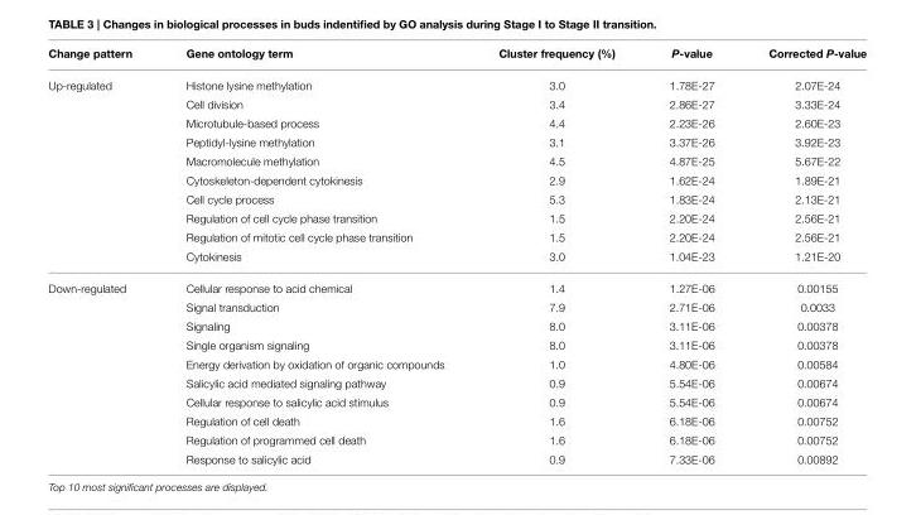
<table><thead><tr><td>Change pattern</td><td>Gene ontology term</td><td>Cluster frequency (%)</td><td>P-value</td><td>Corrected P-value</td></tr></thead><tbody><tr><td rowspan="10">Up-regulated</td><td>Histone lysine methylation</td><td>3.0</td><td>1.78E-27</td><td>2.07E-24</td></tr><tr><td>Cell division</td><td>3.4</td><td>2.86E-27</td><td>3.33E-24</td></tr><tr><td>Microtubule-based process</td><td>4.4</td><td>2.23E-26</td><td>2.60E-23</td></tr><tr><td>Peptidyl-lysine methylation</td><td>3.1</td><td>3.37E-26</td><td>3.92E-23</td></tr><tr><td>Macromolecule methylation</td><td>4.5</td><td>4.87E-25</td><td>5.67E-22</td></tr><tr><td>Cytoskeleton-dependent cytokinesis</td><td>2.9</td><td>1.62E-24</td><td>1.89E-21</td></tr><tr><td>Cell cycle process</td><td>5.3</td><td>1.83E-24</td><td>2.13E-21</td></tr><tr><td>Regulation of cell cycle phase transition</td><td>1.5</td><td>2.20E-24</td><td>2.56E-21</td></tr><tr><td>Regulation of mitotic cell cycle phase transition</td><td>1.5</td><td>2.20E-24</td><td>2.56E-21</td></tr><tr><td>Cytokinesis</td><td>3.0</td><td>1.04E-23</td><td>1.21E-20</td></tr><tr><td rowspan="10">Down-regulated</td><td>Cellular response to acid chemical</td><td>1.4</td><td>1.27E-06</td><td>0.00155</td></tr><tr><td>Signal transduction</td><td>7.9</td><td>2.71E-06</td><td>0.0033</td></tr><tr><td>Signaling</td><td>8.0</td><td>3.11E-06</td><td>0.00378</td></tr><tr><td>Single organism signaling</td><td>8.0</td><td>3.11E-06</td><td>0.00378</td></tr><tr><td>Energy derivation by oxidation of organic compounds</td><td>1.0</td><td>4.80E-06</td><td>0.00584</td></tr><tr><td>Salicylic acid mediated signaling pathway</td><td>0.9</td><td>5.54E-06</td><td>0.00674</td></tr><tr><td>Cellular response to salicylic acid stimulus</td><td>0.9</td><td>5.54E-06</td><td>0.00674</td></tr><tr><td>Regulation of cell death</td><td>1.6</td><td>6.18E-06</td><td>0.00752</td></tr><tr><td>Regulation of programmed cell death</td><td>1.6</td><td>6.18E-06</td><td>0.00752</td></tr><tr><td>Response to salicylic acid</td><td>0.9</td><td>7.33E-06</td><td>0.00892</td></tr></tbody></table>